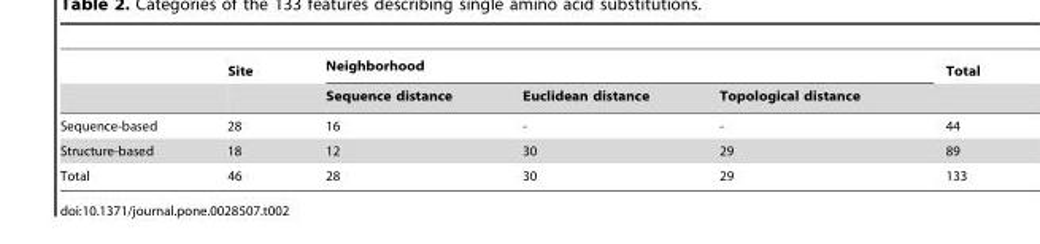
<table><thead><tr><td rowspan="2"></td><td rowspan="2">Site</td><td colspan="3">Neighborhood</td><td rowspan="2">Total</td></tr><tr><td>Sequence distance</td><td>Euclidean distance</td><td>Topological distance</td></tr></thead><tbody><tr><td>Sequence-based</td><td>28</td><td>16</td><td>-</td><td>-</td><td>44</td></tr><tr><td>Structure-based</td><td>18</td><td>12</td><td>30</td><td>29</td><td>89</td></tr><tr><td>Total</td><td>46</td><td>28</td><td>30</td><td>29</td><td>133</td></tr></tbody></table>